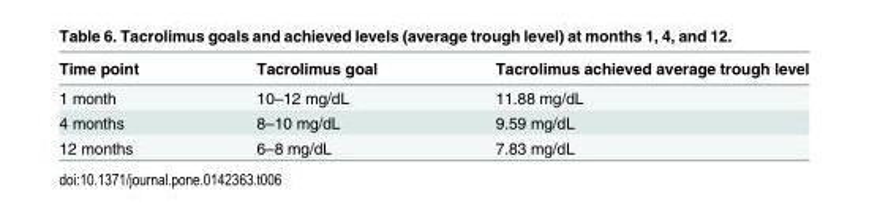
<table><thead><tr><td>Time point</td><td>Tacrolimus goal</td><td>Tacrolimus achieved average trough level</td></tr></thead><tbody><tr><td>1 month</td><td>10–12 mg/dL</td><td>11.88 mg/dL</td></tr><tr><td>4 months</td><td>8–10 mg/dL</td><td>9.59 mg/dL</td></tr><tr><td>12 months</td><td>6–8 mg/dL</td><td>7.83 mg/dL</td></tr></tbody></table>